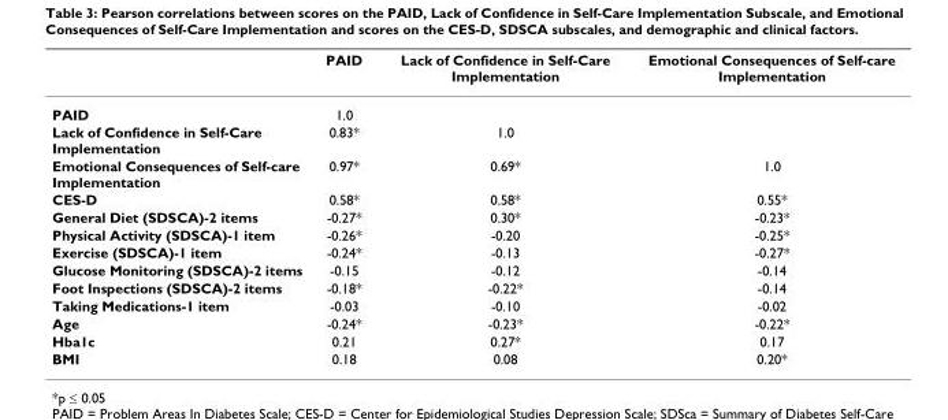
<table><thead><tr><td></td><td>PAID</td><td>Lack of Confidence in Self-Care Implementation</td><td>Emotional Consequences of Self-care Implementation</td></tr></thead><tbody><tr><td>PAID</td><td>1.0</td><td></td><td></td></tr><tr><td>Lack of Confidence in Self-Care Implementation</td><td>0.83*</td><td>1.0</td><td></td></tr><tr><td>Emotional Consequences of Self-care Implementation</td><td>0.97*</td><td>0.69*</td><td>1.0</td></tr><tr><td>CES-D</td><td>0.58*</td><td>0.58*</td><td>0.55*</td></tr><tr><td>General Diet (SDSCA)-2 items</td><td>-0.27*</td><td>0.30*</td><td>-0.23*</td></tr><tr><td>Physical Activity (SDSCA)-1 item</td><td>-0.26*</td><td>-0.20</td><td>-0.25*</td></tr><tr><td>Exercise (SDSCA)-1 item</td><td>-0.24*</td><td>-0.13</td><td>-0.27*</td></tr><tr><td>Glucose Monitoring (SDSCA)-2 items</td><td>-0.15</td><td>-0.12</td><td>-0.14</td></tr><tr><td>Foot Inspections (SDSCA)-2 items</td><td>-0.18*</td><td>-0.22*</td><td>-0.14</td></tr><tr><td>Taking Medications-1 item</td><td>-0.03</td><td>-0.10</td><td>-0.02</td></tr><tr><td>Age</td><td>-0.24*</td><td>-0.23*</td><td>-0.22*</td></tr><tr><td>Hba1c</td><td>0.21</td><td>0.27*</td><td>0.17</td></tr><tr><td>BMI</td><td>0.18</td><td>0.08</td><td>0.20*</td></tr></tbody></table>